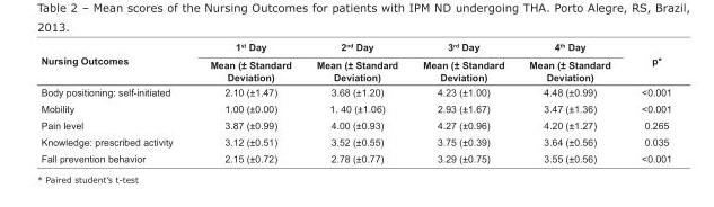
<table><thead><tr><td rowspan="2">Nursing Outcomes</td><td rowspan="2">1<sup>st</sup> Day Mean (± Standard Deviation)</td><td rowspan="2">2<sup>nd</sup> Day Mean (± Standard Deviation)</td><td rowspan="2">3<sup>rd</sup> Day Mean (± Standard Deviation)</td><td rowspan="2">4<sup>th</sup> Day Mean (± Standard Deviation)</td><td rowspan="2">p*</td></tr><tr></tr></thead><tbody><tr><td>Body positioning: self-initiated</td><td>2.10 (±1.47)</td><td>3.68 (±1.20)</td><td>4.23 (±1.00)</td><td>4.48 (±0.99)</td><td>&lt;0.001</td></tr><tr><td>Mobility</td><td>1.00 (±0.00)</td><td>1. 40 (±1.06)</td><td>2.93 (±1.67)</td><td>3.47 (±1.36)</td><td>&lt;0.001</td></tr><tr><td>Pain level</td><td>3.87 (±0.99)</td><td>4.00 (±0.93)</td><td>4.27 (±0.96)</td><td>4.20 (±1.27)</td><td>0.265</td></tr><tr><td>Knowledge: prescribed activity</td><td>3.12 (±0.51)</td><td>3.52 (±0.55)</td><td>3.75 (±0.39)</td><td>3.64 (±0.56)</td><td>0.035</td></tr><tr><td>Fall prevention behavior</td><td>2.15 (±0.72)</td><td>2.78 (±0.77)</td><td>3.29 (±0.75)</td><td>3.55 (±0.56)</td><td>&lt;0.001</td></tr></tbody></table>